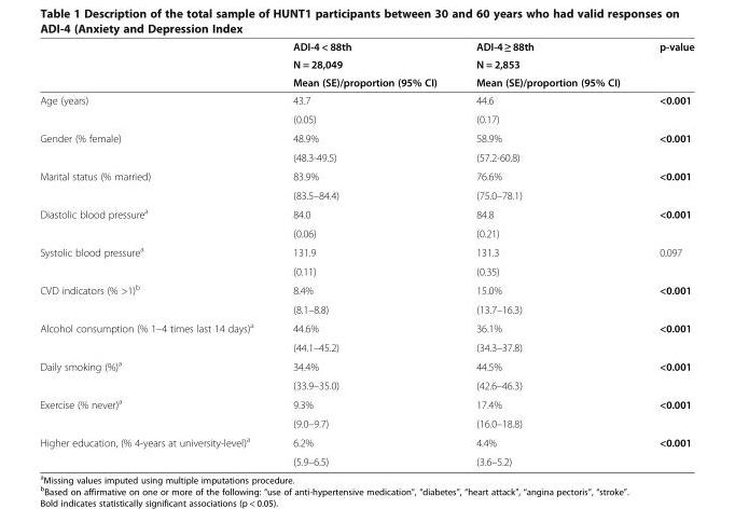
<table><thead><tr><td rowspan="3"></td><td rowspan="3">ADI-4 &lt; 88th N = 28,049 Mean (SE)/proportion (95% CI)</td><td rowspan="3">ADI-4 ≥ 88th N = 2,853 Mean (SE)/proportion (95% CI)</td><td rowspan="3">p-value</td></tr><tr></tr><tr></tr></thead><tbody><tr><td rowspan="2">Age (years)</td><td>43.7</td><td>44.6</td><td rowspan="2">&lt;0.001</td></tr><tr><td>(0.05)</td><td>(0.17)</td></tr><tr><td rowspan="2">Gender (% female)</td><td>48.9%</td><td>58.9%</td><td rowspan="2">&lt;0.001</td></tr><tr><td>(48.3-49.5)</td><td>(57.2-60.8)</td></tr><tr><td rowspan="2">Marital status (% married)</td><td>83.9%</td><td>76.6%</td><td rowspan="2">&lt;0.001</td></tr><tr><td>(83.5–84.4)</td><td>(75.0–78.1)</td></tr><tr><td rowspan="2">Diastolic blood pressure<sup>a</sup></td><td>84.0</td><td>84.8</td><td rowspan="2">&lt;0.001</td></tr><tr><td>(0.06)</td><td>(0.21)</td></tr><tr><td rowspan="2">Systolic blood pressure<sup>a</sup></td><td>131.9</td><td>131.3</td><td rowspan="2">0.097</td></tr><tr><td>(0.11)</td><td>(0.35)</td></tr><tr><td rowspan="2">CVD indicators (% &gt;1)<sup>b</sup></td><td>8.4%</td><td>15.0%</td><td rowspan="2">&lt;0.001</td></tr><tr><td>(8.1–8.8)</td><td>(13.7–16.3)</td></tr><tr><td rowspan="2">Alcohol consumption (% 1–4 times last 14 days)<sup>a</sup></td><td>44.6%</td><td>36.1%</td><td rowspan="2">&lt;0.001</td></tr><tr><td>(44.1–45.2)</td><td>(34.3–37.8)</td></tr><tr><td rowspan="2">Daily smoking (%)<sup>a</sup></td><td>34.4%</td><td>44.5%</td><td rowspan="2">&lt;0.001</td></tr><tr><td>(33.9–35.0)</td><td>(42.6–46.3)</td></tr><tr><td rowspan="2">Exercise (% never)<sup>a</sup></td><td>9.3%</td><td>17.4%</td><td rowspan="2">&lt;0.001</td></tr><tr><td>(9.0–9.7)</td><td>(16.0–18.8)</td></tr><tr><td rowspan="2">Higher education, (% 4-years at university-level)<sup>a</sup></td><td>6.2%</td><td>4.4%</td><td rowspan="2">&lt;0.001</td></tr><tr><td>(5.9–6.5)</td><td>(3.6–5.2)</td></tr></tbody></table>